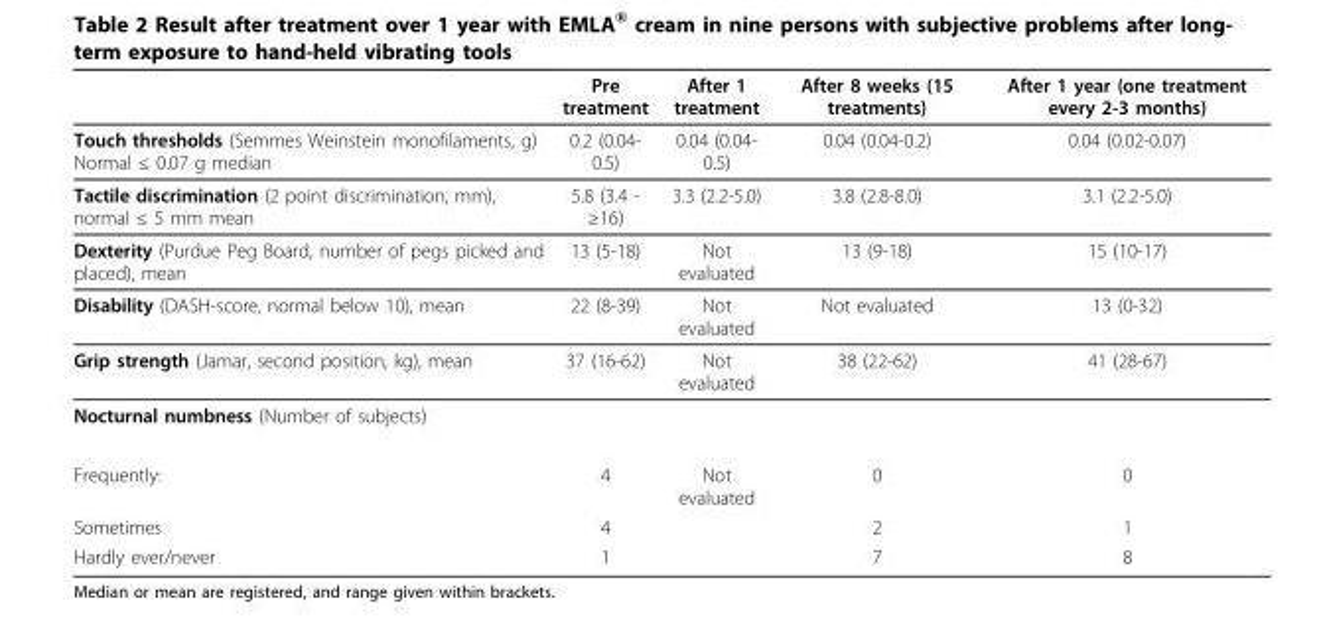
<table><thead><tr><td></td><td>Pre treatment</td><td>After 1 treatment</td><td>After 8 weeks (15 treatments)</td><td>After 1 year (one treatment every 2-3 months)</td></tr></thead><tbody><tr><td>Touch thresholds (Semmes Weinstein monofilaments, g) Normal ≤ 0.07 g median</td><td>0.2 (0.04- 0.5)</td><td>0.04 (0.04- 0.5)</td><td>0.04 (0.04-0.2)</td><td>0.04 (0.02-0.07)</td></tr><tr><td>Tactile discrimination (2 point discrimination, mm), normal ≤ 5 mm mean</td><td>5.8 (3.4 - ≥16)</td><td>3.3 (2.2-5.0)</td><td>3.8 (2.8-8.0)</td><td>3.1 (2.2-5.0)</td></tr><tr><td>Dexterity (Purdue Peg Board, number of pegs picked and placed), mean</td><td>13 (5-18)</td><td>Not evaluated</td><td>13 (9-18)</td><td>15 (10-17)</td></tr><tr><td>Disability (DASH-score, normal below 10), mean</td><td>22 (8-39)</td><td>Not evaluated</td><td>Not evaluated</td><td>13 (0-32)</td></tr><tr><td>Grip strength (Jamar, second position, kg), mean</td><td>37 (16-62)</td><td>Not evaluated</td><td>38 (22-62)</td><td>41 (28-67)</td></tr><tr><td colspan="5">Nocturnal numbness (Number of subjects)</td></tr><tr><td>Frequently:</td><td>4</td><td>Not evaluated</td><td>0</td><td>0</td></tr><tr><td>Sometimes</td><td>4</td><td></td><td>2</td><td>1</td></tr><tr><td>Hardly ever/never</td><td>1</td><td></td><td>7</td><td>8</td></tr></tbody></table>